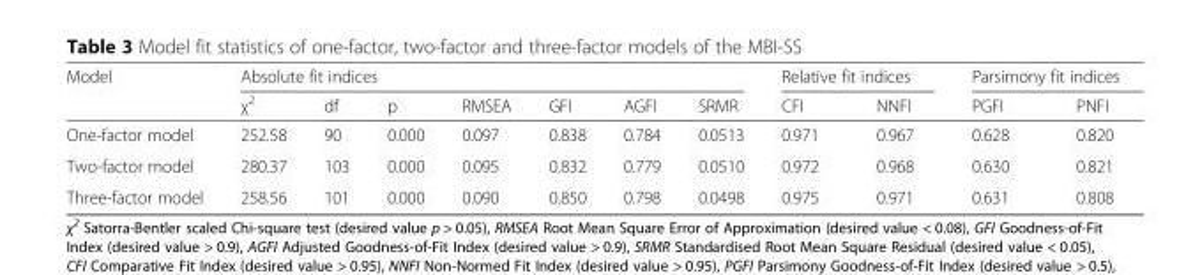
<table><thead><tr><td rowspan="2">Model</td><td colspan="7">Absolute fit indices</td><td colspan="2">Relative fit indices</td><td colspan="2">Parsimony fit indices</td></tr><tr><td>χ<sup>2</sup></td><td>df</td><td>p</td><td>RMSEA</td><td>GFI</td><td>AGFI</td><td>SRMR</td><td>CFI</td><td>NNFI</td><td>PGFI</td><td>PNFI</td></tr></thead><tbody><tr><td>One-factor model</td><td>252.58</td><td>90</td><td>0.000</td><td>0.097</td><td>0.838</td><td>0.784</td><td>0.0513</td><td>0.971</td><td>0.967</td><td>0.628</td><td>0.820</td></tr><tr><td>Two-factor model</td><td>280.37</td><td>103</td><td>0.000</td><td>0.095</td><td>0.832</td><td>0.779</td><td>0.0510</td><td>0.972</td><td>0.968</td><td>0.630</td><td>0.821</td></tr><tr><td>Three-factor model</td><td>258.56</td><td>101</td><td>0.000</td><td>0.090</td><td>0.850</td><td>0.798</td><td>0.0498</td><td>0.975</td><td>0.971</td><td>0.631</td><td>0.808</td></tr></tbody></table>